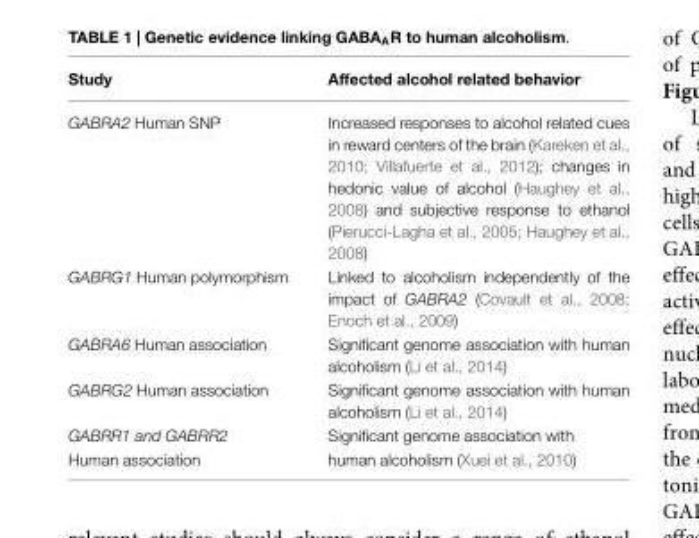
<table><thead><tr><td>Study</td><td>Affected alcohol related behavior</td></tr></thead><tbody><tr><td>GABRA2 Human SNP</td><td>Increased responses to alcohol related cues in reward centers of the brain (Kareken et al., 2010; Villafuerte et al., 2012); changes in hedonic value of alcohol (Haughey et al., 2008) and subjective response to ethanol (Pierucci-Lagha et al., 2005; Haughey et al., 2008)</td></tr><tr><td>GABRG1 Human polymorphism</td><td>Linked to alcoholism independently of the impact of GABRA2 (Covault et al., 2008; Enoch et al., 2009)</td></tr><tr><td>GABRA6 Human association</td><td>Significant genome association with human alcoholism (Li et al., 2014)</td></tr><tr><td>GABRG2 Human association</td><td>Significant genome association with human alcoholism (Li et al., 2014)</td></tr><tr><td>GABRR1 and GABRR2</td><td>Significant genome association with</td></tr><tr><td>Human association</td><td>human alcoholism (Xuei et al., 2010)</td></tr></tbody></table>